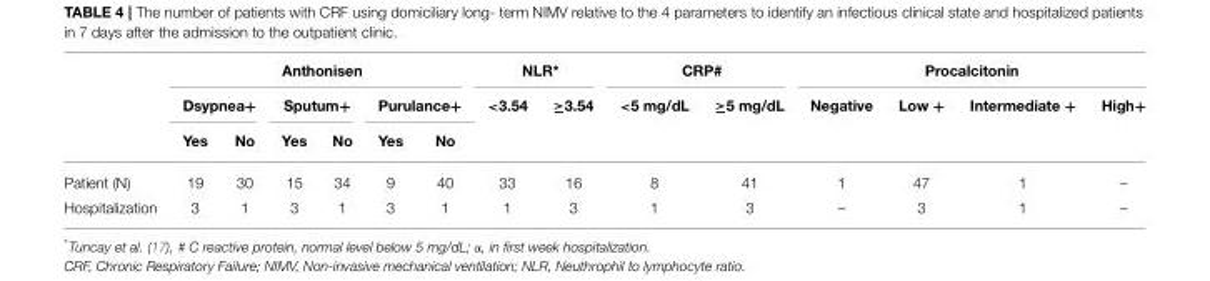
<table><thead><tr><td rowspan="3"></td><td colspan="6">Anthonisen</td><td colspan="2">NLR*</td><td colspan="2">CRP#</td><td colspan="4">Procalcitonin</td></tr><tr><td colspan="2">Dsypnea+</td><td colspan="2">Sputum+</td><td colspan="2">Purulance+</td><td rowspan="2">&lt;3.54</td><td rowspan="2">≥3.54</td><td rowspan="2">&lt;5 mg/dL</td><td rowspan="2">≥5 mg/dL</td><td rowspan="2">Negative</td><td rowspan="2">Low +</td><td rowspan="2">Intermediate +</td><td rowspan="2">High+</td></tr><tr><td>Yes</td><td>No</td><td>Yes</td><td>No</td><td>Yes</td><td>No</td></tr></thead><tbody><tr><td>Patient (N)</td><td>19</td><td>30</td><td>15</td><td>34</td><td>9</td><td>40</td><td>33</td><td>16</td><td>8</td><td>41</td><td>1</td><td>47</td><td>1</td><td>–</td></tr><tr><td>Hospitalization</td><td>3</td><td>1</td><td>3</td><td>1</td><td>3</td><td>1</td><td>1</td><td>3</td><td>1</td><td>3</td><td>–</td><td>3</td><td>1</td><td>–</td></tr></tbody></table>